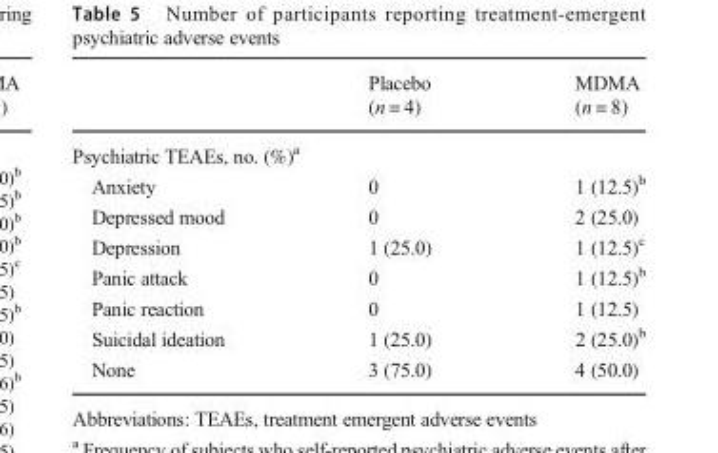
<table><thead><tr><td></td><td>Placebo (n = 4)</td><td>MDMA (n = 8)</td></tr></thead><tbody><tr><td colspan="3">Psychiatric TEAEs, no. (%)<sup>a</sup></td></tr><tr><td>Anxiety</td><td>0</td><td>1 (12.5)<sup>b</sup></td></tr><tr><td>Depressed mood</td><td>0</td><td>2 (25.0)</td></tr><tr><td>Depression</td><td>1 (25.0)</td><td>1 (12.5)<sup>c</sup></td></tr><tr><td>Panic attack</td><td>0</td><td>1 (12.5)<sup>b</sup></td></tr><tr><td>Panic reaction</td><td>0</td><td>1 (12.5)</td></tr><tr><td>Suicidal ideation</td><td>1 (25.0)</td><td>2 (25.0)<sup>b</sup></td></tr><tr><td>None</td><td>3 (75.0)</td><td>4 (50.0)</td></tr></tbody></table>